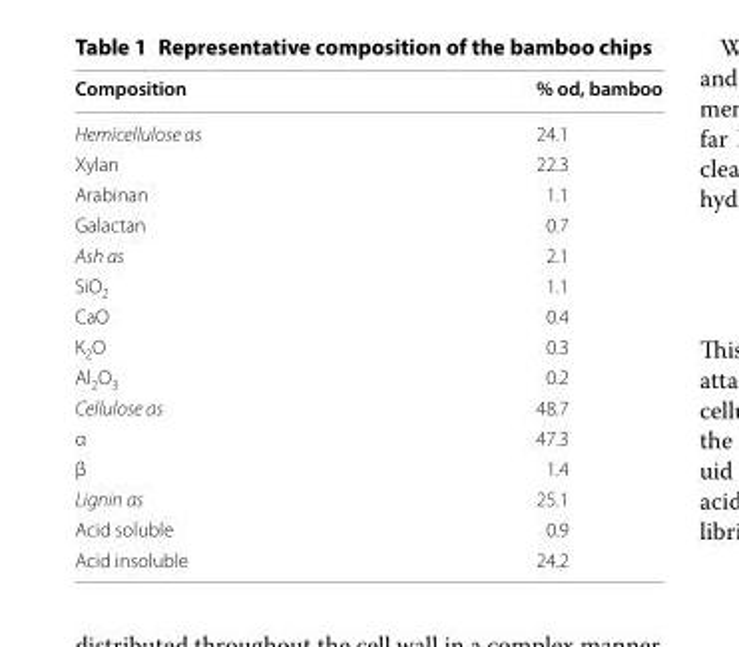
<table><thead><tr><td>Composition</td><td>% od, bamboo</td></tr></thead><tbody><tr><td>Hemicellulose as</td><td>24.1</td></tr><tr><td>Xylan</td><td>22.3</td></tr><tr><td>Arabinan</td><td>1.1</td></tr><tr><td>Galactan</td><td>0.7</td></tr><tr><td>Ash as</td><td>2.1</td></tr><tr><td>SiO<sub>2</sub></td><td>1.1</td></tr><tr><td>CaO</td><td>0.4</td></tr><tr><td>K<sub>2</sub>O</td><td>0.3</td></tr><tr><td>Al<sub>2</sub>O<sub>3</sub></td><td>0.2</td></tr><tr><td>Cellulose as</td><td>48.7</td></tr><tr><td>α</td><td>47.3</td></tr><tr><td>β</td><td>1.4</td></tr><tr><td>Lignin as</td><td>25.1</td></tr><tr><td>Acid soluble</td><td>0.9</td></tr><tr><td>Acid insoluble</td><td>24.2</td></tr></tbody></table>